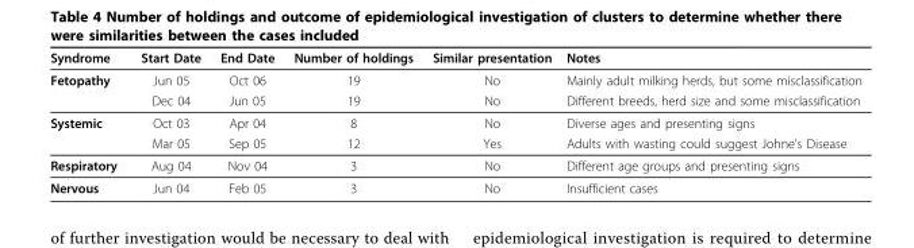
<table><thead><tr><td>Syndrome</td><td>Start Date</td><td>End Date</td><td>Number of holdings</td><td>Similar presentation</td><td>Notes</td></tr></thead><tbody><tr><td rowspan="2">Fetopathy</td><td>Jun 05</td><td>Oct 06</td><td>19</td><td>No</td><td>Mainly adult milking herds, but some misclassification</td></tr><tr><td>Dec 04</td><td>Jun 05</td><td>19</td><td>No</td><td>Different breeds, herd size and some misclassification</td></tr><tr><td rowspan="2">Systemic</td><td>Oct 03</td><td>Apr 04</td><td>8</td><td>No</td><td>Diverse ages and presenting signs</td></tr><tr><td>Mar 05</td><td>Sep 05</td><td>12</td><td>Yes</td><td>Adults with wasting could suggest Johne’s Disease</td></tr><tr><td>Respiratory</td><td>Aug 04</td><td>Nov 04</td><td>3</td><td>No</td><td>Different age groups and presenting signs</td></tr><tr><td>Nervous</td><td>Jun 04</td><td>Feb 05</td><td>3</td><td>No</td><td>Insufficient cases</td></tr></tbody></table>